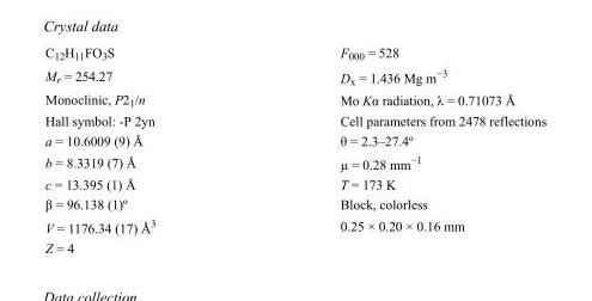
<table><tbody><tr><td>C<sub>12</sub>H<sub>11</sub>FO<sub>3</sub>S</td><td>F000 = 528</td></tr><tr><td>M<sub>r</sub> = 254.27</td><td>D<sub>x</sub> = 1.436 Mg m<sup>−3</sup></td></tr><tr><td>Monoclinic, P2<sub>1</sub>/n</td><td>Mo Kα radiation, λ = 0.71073 Å</td></tr><tr><td>Hall symbol: -P 2yn</td><td>Cell parameters from 2478 reflections</td></tr><tr><td>a = 10.6009 (9) Å</td><td>θ = 2.3–27.4º</td></tr><tr><td>b = 8.3319 (7) Å</td><td>µ = 0.28 mm<sup>−1</sup></td></tr><tr><td>c = 13.395 (1) Å</td><td>T = 173 K</td></tr><tr><td>β = 96.138 (1)º</td><td>Block, colorless</td></tr><tr><td>V = 1176.34 (17) Å<sup>3</sup></td><td>0.25 × 0.20 × 0.16 mm</td></tr><tr><td>Z = 4</td><td></td></tr></tbody></table>